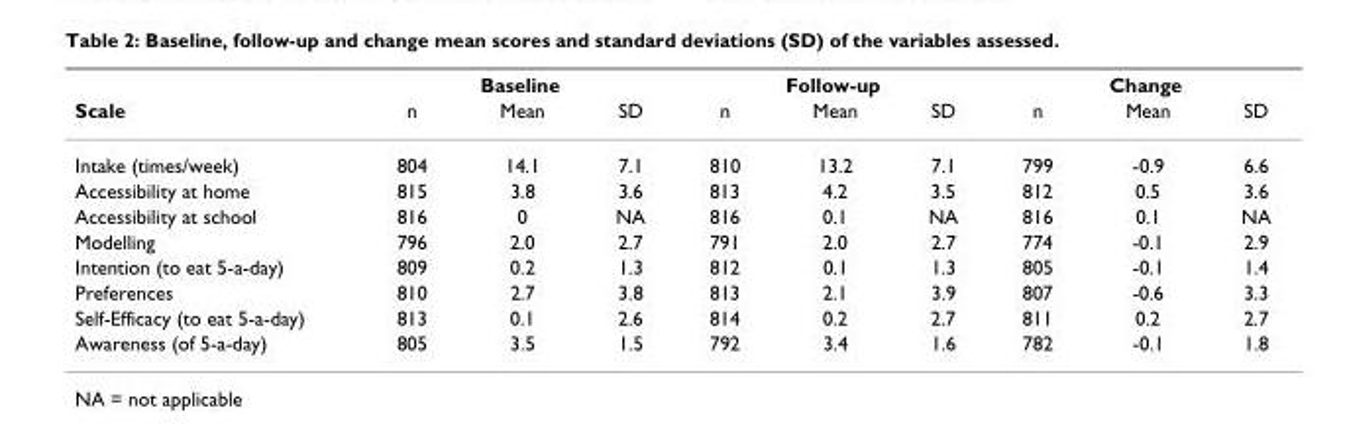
<table><thead><tr><td rowspan="2">Scale</td><td colspan="3">Baseline</td><td colspan="3">Follow-up</td><td colspan="3">Change</td></tr><tr><td>n</td><td>Mean</td><td>SD</td><td>n</td><td>Mean</td><td>SD</td><td>n</td><td>Mean</td><td>SD</td></tr></thead><tbody><tr><td>Intake (times/week)</td><td>804</td><td>14.1</td><td>7.1</td><td>810</td><td>13.2</td><td>7.1</td><td>799</td><td>-0.9</td><td>6.6</td></tr><tr><td>Accessibility at home</td><td>815</td><td>3.8</td><td>3.6</td><td>813</td><td>4.2</td><td>3.5</td><td>812</td><td>0.5</td><td>3.6</td></tr><tr><td>Accessibility at school</td><td>816</td><td>0</td><td>NA</td><td>816</td><td>0.1</td><td>NA</td><td>816</td><td>0.1</td><td>NA</td></tr><tr><td>Modelling</td><td>796</td><td>2.0</td><td>2.7</td><td>791</td><td>2.0</td><td>2.7</td><td>774</td><td>-0.1</td><td>2.9</td></tr><tr><td>Intention (to eat 5-a-day)</td><td>809</td><td>0.2</td><td>1.3</td><td>812</td><td>0.1</td><td>1.3</td><td>805</td><td>-0.1</td><td>1.4</td></tr><tr><td>Preferences</td><td>810</td><td>2.7</td><td>3.8</td><td>813</td><td>2.1</td><td>3.9</td><td>807</td><td>-0.6</td><td>3.3</td></tr><tr><td>Self-Efficacy (to eat 5-a-day)</td><td>813</td><td>0.1</td><td>2.6</td><td>814</td><td>0.2</td><td>2.7</td><td>811</td><td>0.2</td><td>2.7</td></tr><tr><td>Awareness (of 5-a-day)</td><td>805</td><td>3.5</td><td>1.5</td><td>792</td><td>3.4</td><td>1.6</td><td>782</td><td>-0.1</td><td>1.8</td></tr></tbody></table>